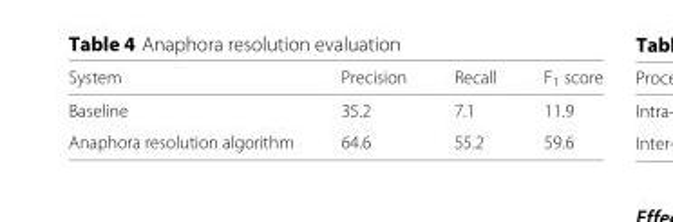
<table><thead><tr><td>System</td><td>Precision</td><td>Recall</td><td>F<sub>1</sub> score</td></tr></thead><tbody><tr><td>Baseline</td><td>35.2</td><td>7.1</td><td>11.9</td></tr><tr><td>Anaphora resolution algorithm</td><td>64.6</td><td>55.2</td><td>59.6</td></tr></tbody></table>